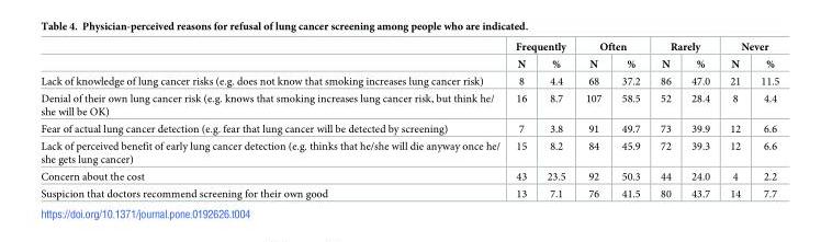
<table><thead><tr><td rowspan="2"></td><td colspan="2">Frequently</td><td colspan="2">Often</td><td colspan="2">Rarely</td><td colspan="2">Never</td></tr><tr><td>N</td><td>%</td><td>N</td><td>%</td><td>N</td><td>%</td><td>N</td><td>%</td></tr></thead><tbody><tr><td>Lack of knowledge of lung cancer risks (e.g. does not know that smoking increases lung cancer risk)</td><td>8</td><td>4.4</td><td>68</td><td>37.2</td><td>86</td><td>47.0</td><td>21</td><td>11.5</td></tr><tr><td>Denial of their own lung cancer risk (e.g. knows that smoking increases lung cancer risk, but think he/ she will be OK)</td><td>16</td><td>8.7</td><td>107</td><td>58.5</td><td>52</td><td>28.4</td><td>8</td><td>4.4</td></tr><tr><td>Fear of actual lung cancer detection (e.g. fear that lung cancer will be detected by screening)</td><td>7</td><td>3.8</td><td>91</td><td>49.7</td><td>73</td><td>39.9</td><td>12</td><td>6.6</td></tr><tr><td>Lack of perceived benefit of early lung cancer detection (e.g. thinks that he/she will die anyway once he/ she gets lung cancer)</td><td>15</td><td>8.2</td><td>84</td><td>45.9</td><td>72</td><td>39.3</td><td>12</td><td>6.6</td></tr><tr><td>Concern about the cost</td><td>43</td><td>23.5</td><td>92</td><td>50.3</td><td>44</td><td>24.0</td><td>4</td><td>2.2</td></tr><tr><td>Suspicion that doctors recommend screening for their own good</td><td>13</td><td>7.1</td><td>76</td><td>41.5</td><td>80</td><td>43.7</td><td>14</td><td>7.7</td></tr></tbody></table>